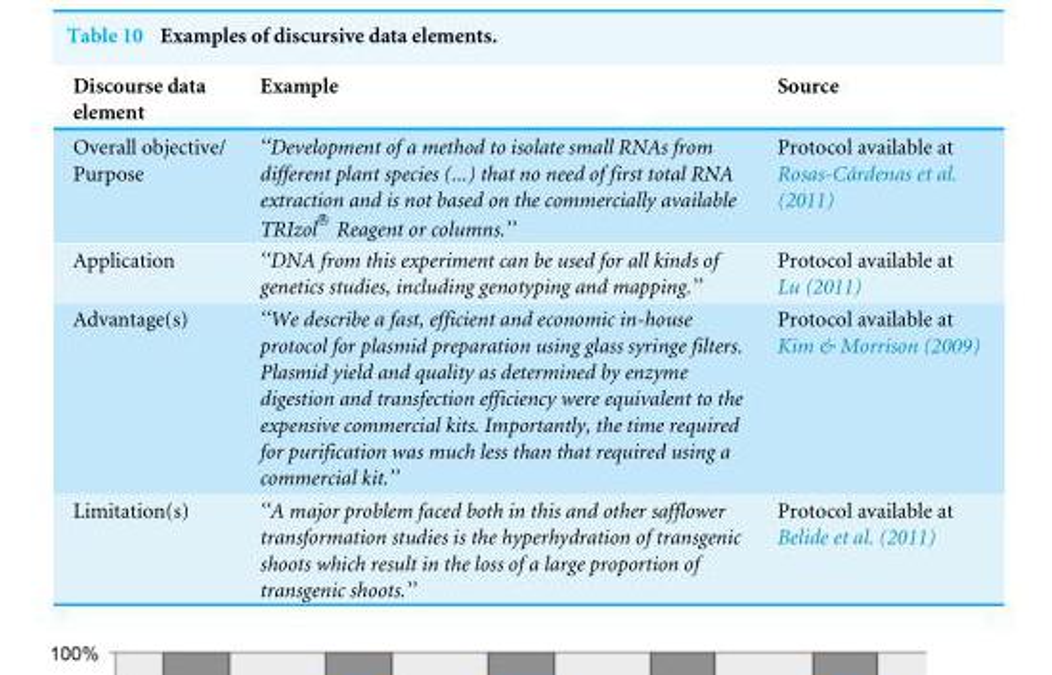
<table><thead><tr><td>Discourse data element</td><td>Example</td><td>Source</td></tr></thead><tbody><tr><td>Overall objective/ Purpose</td><td>‘‘Development of a method to isolate small RNAs from different plant species (...) that no need of first total RNA extraction and is not based on the commercially available TRIzol R ⃝ Reagent or columns.’’</td><td>Protocol available at Rosas-Cárdenas et al. (2011)</td></tr><tr><td>Application</td><td>‘‘DNA from this experiment can be used for all kinds of genetics studies, including genotyping and mapping.’’</td><td>Protocol available at Lu (2011)</td></tr><tr><td>Advantage(s)</td><td>‘‘We describe a fast, efficient and economic in-house protocol for plasmid preparation using glass syringe filters. Plasmid yield and quality as determined by enzyme digestion and transfection efficiency were equivalent to the expensive commercial kits. Importantly, the time required for purification was much less than that required using a commercial kit.’’</td><td>Protocol available at Kim &amp; Morrison (2009)</td></tr><tr><td>Limitation(s)</td><td>‘‘A major problem faced both in this and other safflower transformation studies is the hyperhydration of transgenic shoots which result in the loss of a large proportion of transgenic shoots.’’</td><td>Protocol available at Belide et al. (2011)</td></tr></tbody></table>